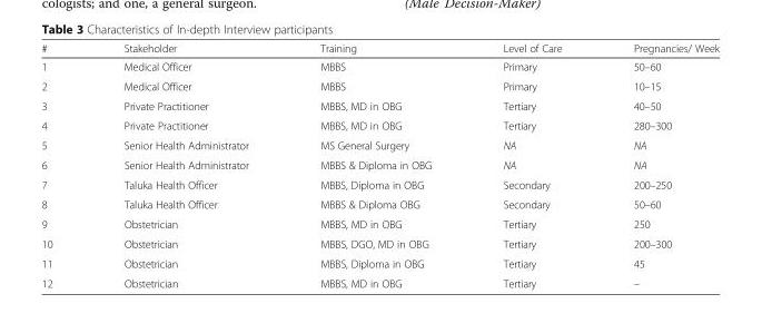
<table><thead><tr><td>#</td><td>Stakeholder</td><td>Training</td><td>Level of Care</td><td>Pregnancies/ Week</td></tr></thead><tbody><tr><td>1</td><td>Medical Officer</td><td>MBBS</td><td>Primary</td><td>50–60</td></tr><tr><td>2</td><td>Medical Officer</td><td>MBBS</td><td>Primary</td><td>10–15</td></tr><tr><td>3</td><td>Private Practitioner</td><td>MBBS, MD in OBG</td><td>Tertiary</td><td>40–50</td></tr><tr><td>4</td><td>Private Practitioner</td><td>MBBS, MD in OBG</td><td>Tertiary</td><td>280–300</td></tr><tr><td>5</td><td>Senior Health Administrator</td><td>MS General Surgery</td><td>NA</td><td>NA</td></tr><tr><td>6</td><td>Senior Health Administrator</td><td>MBBS &amp; Diploma in OBG</td><td>NA</td><td>NA</td></tr><tr><td>7</td><td>Taluka Health Officer</td><td>MBBS, Diploma in OBG</td><td>Secondary</td><td>200–250</td></tr><tr><td>8</td><td>Taluka Health Officer</td><td>MBBS &amp; Diploma OBG</td><td>Secondary</td><td>50–60</td></tr><tr><td>9</td><td>Obstetrician</td><td>MBBS, MD in OBG</td><td>Tertiary</td><td>250</td></tr><tr><td>10</td><td>Obstetrician</td><td>MBBS, DGO, MD in OBG</td><td>Tertiary</td><td>200–300</td></tr><tr><td>11</td><td>Obstetrician</td><td>MBBS, Diploma in OBG</td><td>Tertiary</td><td>45</td></tr><tr><td>12</td><td>Obstetrician</td><td>MBBS, MD in OBG</td><td>Tertiary</td><td>–</td></tr></tbody></table>